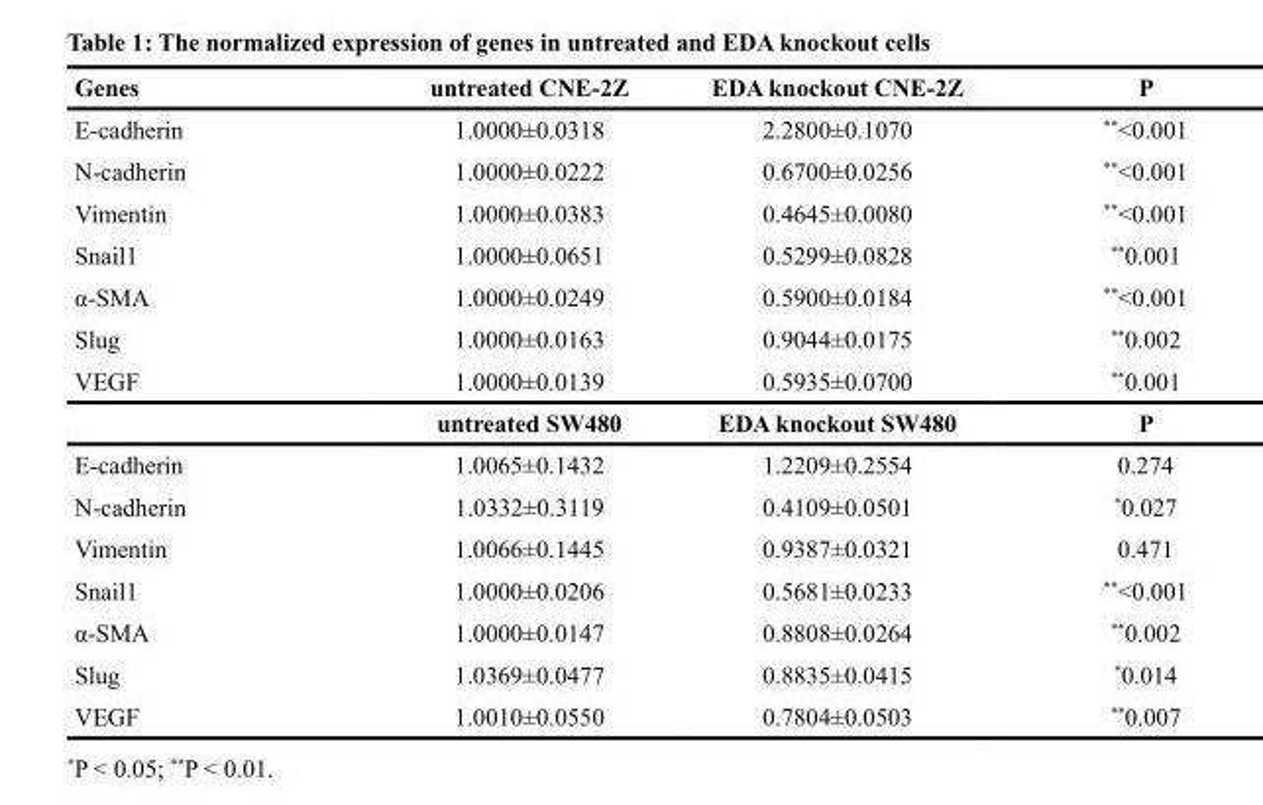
<table><thead><tr><td>Genes</td><td>untreated CNE-2Z</td><td>EDA knockout CNE-2Z</td><td>P</td></tr></thead><tbody><tr><td>E-cadherin</td><td>1.0000±0.0318</td><td>2.2800±0.1070</td><td>**&lt;0.001</td></tr><tr><td>N-cadherin</td><td>1.0000±0.0222</td><td>0.6700±0.0256</td><td>**&lt;0.001</td></tr><tr><td>Vimentin</td><td>1.0000±0.0383</td><td>0.4645±0.0080</td><td>**&lt;0.001</td></tr><tr><td>Snail1</td><td>1.0000±0.0651</td><td>0.5299±0.0828</td><td>**0.001</td></tr><tr><td>α-SMA</td><td>1.0000±0.0249</td><td>0.5900±0.0184</td><td>**&lt;0.001</td></tr><tr><td>Slug</td><td>1.0000±0.0163</td><td>0.9044±0.0175</td><td>**0.002</td></tr><tr><td rowspan="2">VEGF</td><td>1.0000±0.0139</td><td>0.5935±0.0700</td><td>**0.001</td></tr><tr><td>untreated SW480</td><td>EDA knockout SW480</td><td>P</td></tr><tr><td>E-cadherin</td><td>1.0065±0.1432</td><td>1.2209±0.2554</td><td>0.274</td></tr><tr><td>N-cadherin</td><td>1.0332±0.3119</td><td>0.4109±0.0501</td><td>*0.027</td></tr><tr><td>Vimentin</td><td>1.0066±0.1445</td><td>0.9387±0.0321</td><td>0.471</td></tr><tr><td>Snail1</td><td>1.0000±0.0206</td><td>0.5681±0.0233</td><td>**&lt;0.001</td></tr><tr><td>α-SMA</td><td>1.0000±0.0147</td><td>0.8808±0.0264</td><td>**0.002</td></tr><tr><td>Slug</td><td>1.0369±0.0477</td><td>0.8835±0.0415</td><td>*0.014</td></tr><tr><td>VEGF</td><td>1.0010±0.0550</td><td>0.7804±0.0503</td><td>**0.007</td></tr></tbody></table>